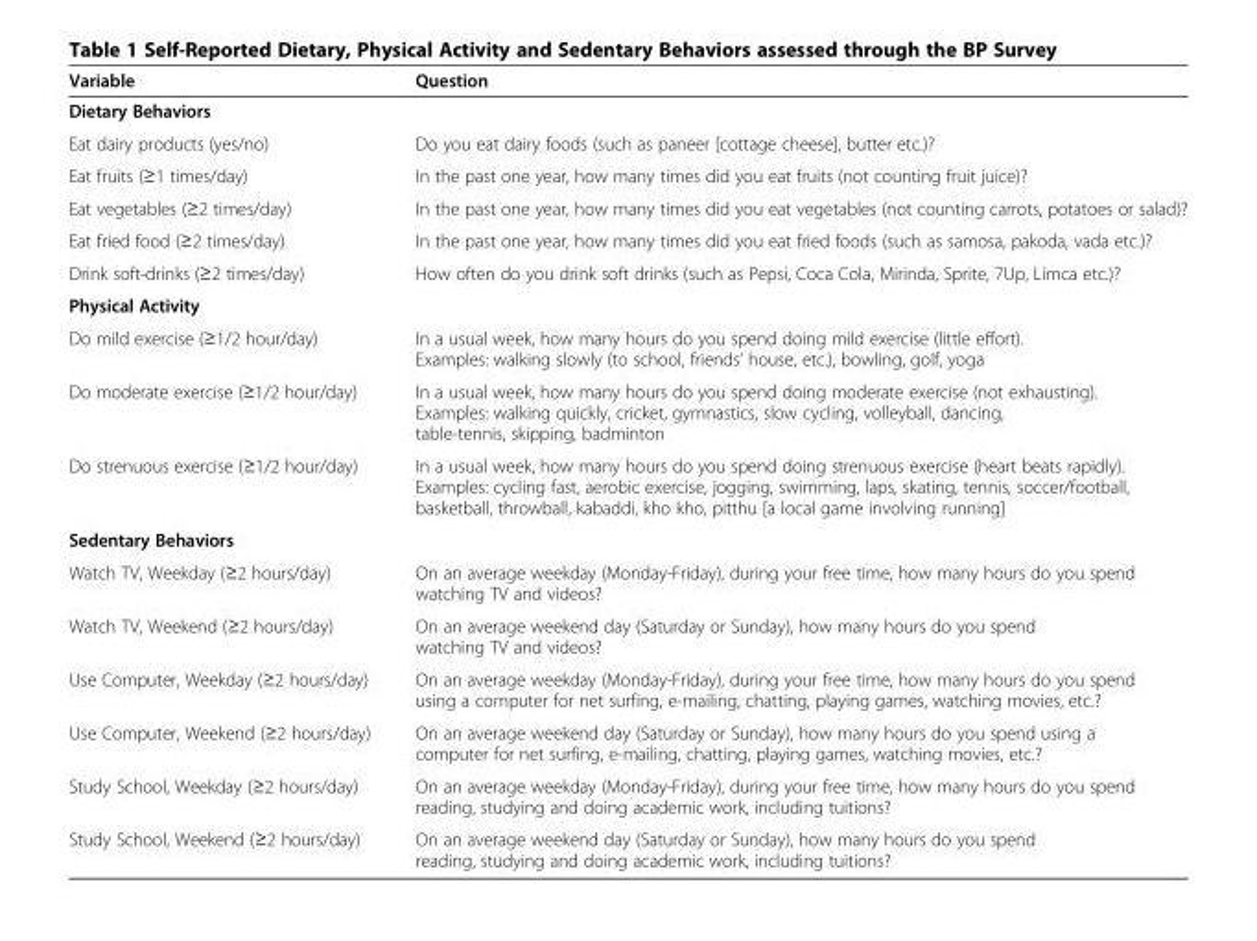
<table><thead><tr><td>Variable</td><td>Question</td></tr></thead><tbody><tr><td colspan="2">Dietary Behaviors</td></tr><tr><td>Eat dairy products (yes/no)</td><td>Do you eat dairy foods (such as paneer [cottage cheese], butter etc.)?</td></tr><tr><td>Eat fruits (≥1 times/day)</td><td>In the past one year, how many times did you eat fruits (not counting fruit juice)?</td></tr><tr><td>Eat vegetables (≥2 times/day)</td><td>In the past one year, how many times did you eat vegetables (not counting carrots, potatoes or salad)?</td></tr><tr><td>Eat fried food (≥2 times/day)</td><td>In the past one year, how many times did you eat fried foods (such as samosa, pakoda, vada etc.)?</td></tr><tr><td>Drink soft-drinks (≥2 times/day)</td><td>How often do you drink soft drinks (such as Pepsi, Coca Cola, Mirinda, Sprite, 7Up, Limca etc.)?</td></tr><tr><td colspan="2">Physical Activity</td></tr><tr><td>Do mild exercise (≥1/2 hour/day)</td><td>In a usual week, how many hours do you spend doing mild exercise (little effort). Examples: walking slowly (to school, friends’ house, etc.), bowling, golf, yoga</td></tr><tr><td>Do moderate exercise (≥1/2 hour/day)</td><td>In a usual week, how many hours do you spend doing moderate exercise (not exhausting). Examples: walking quickly, cricket, gymnastics, slow cycling, volleyball, dancing, table-tennis, skipping, badminton</td></tr><tr><td>Do strenuous exercise (≥1/2 hour/day)</td><td>In a usual week, how many hours do you spend doing strenuous exercise (heart beats rapidly). Examples: cycling fast, aerobic exercise, jogging, swimming, laps, skating, tennis, soccer/football, basketball, throwball, kabaddi, kho kho, pitthu [a local game involving running]</td></tr><tr><td colspan="2">Sedentary Behaviors</td></tr><tr><td>Watch TV, Weekday (≥2 hours/day)</td><td>On an average weekday (Monday-Friday), during your free time, how many hours do you spend watching TV and videos?</td></tr><tr><td>Watch TV, Weekend (≥2 hours/day)</td><td>On an average weekend day (Saturday or Sunday), how many hours do you spend watching TV and videos?</td></tr><tr><td>Use Computer, Weekday (≥2 hours/day)</td><td>On an average weekday (Monday-Friday), during your free time, how many hours do you spend using a computer for net surfing, e-mailing, chatting, playing games, watching movies, etc.?</td></tr><tr><td>Use Computer, Weekend (≥2 hours/day)</td><td>On an average weekend day (Saturday or Sunday), how many hours do you spend using a computer for net surfing, e-mailing, chatting, playing games, watching movies, etc.?</td></tr><tr><td>Study School, Weekday (≥2 hours/day)</td><td>On an average weekday (Monday-Friday), during your free time, how many hours do you spend reading, studying and doing academic work, including tuitions?</td></tr><tr><td>Study School, Weekend (≥2 hours/day)</td><td>On an average weekend day (Saturday or Sunday), how many hours do you spend reading, studying and doing academic work, including tuitions?</td></tr></tbody></table>